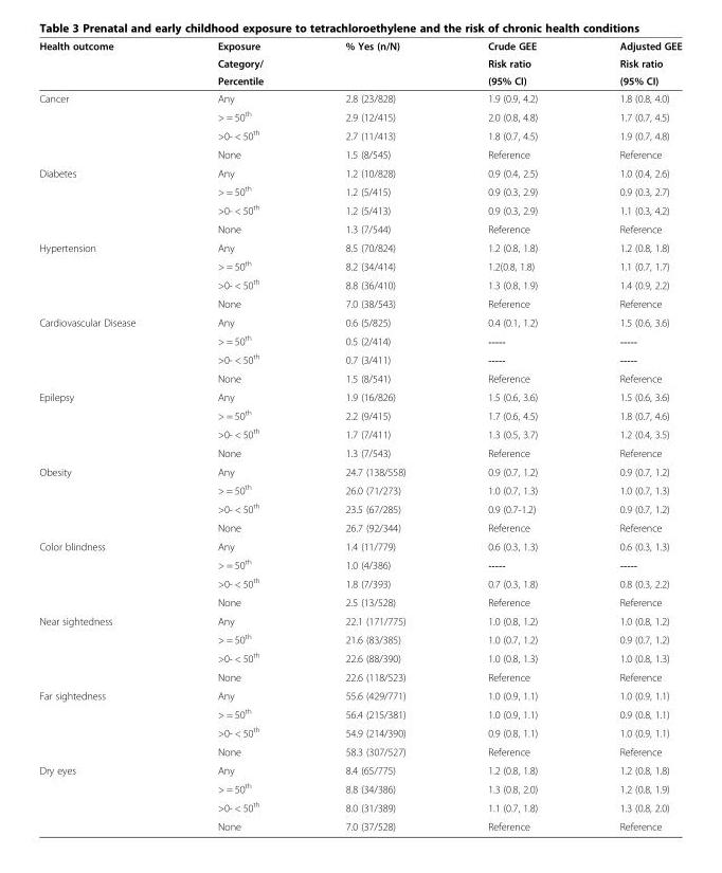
<table><thead><tr><td rowspan="3">Health outcome</td><td rowspan="3">Exposure Category/ Percentile</td><td rowspan="3">% Yes (n/N)</td><td rowspan="3">Crude GEE Risk ratio (95% CI)</td><td rowspan="3">Adjusted GEE Risk ratio (95% CI)</td></tr><tr></tr><tr></tr></thead><tbody><tr><td rowspan="4">Cancer</td><td>Any</td><td>2.8 (23/828)</td><td>1.9 (0.9, 4.2)</td><td>1.8 (0.8, 4.0)</td></tr><tr><td>&gt; = 50<sup>th</sup></td><td>2.9 (12/415)</td><td>2.0 (0.8, 4.8)</td><td>1.7 (0.7, 4.5)</td></tr><tr><td>&gt;0- &lt; 50<sup>th</sup></td><td>2.7 (11/413)</td><td>1.8 (0.7, 4.5)</td><td>1.9 (0.7, 4.8)</td></tr><tr><td>None</td><td>1.5 (8/545)</td><td>Reference</td><td>Reference</td></tr><tr><td rowspan="4">Diabetes</td><td>Any</td><td>1.2 (10/828)</td><td>0.9 (0.4, 2.5)</td><td>1.0 (0.4, 2.6)</td></tr><tr><td>&gt; = 50<sup>th</sup></td><td>1.2 (5/415)</td><td>0.9 (0.3, 2.9)</td><td>0.9 (0.3, 2.7)</td></tr><tr><td>&gt;0- &lt; 50<sup>th</sup></td><td>1.2 (5/413)</td><td>0.9 (0.3, 2.9)</td><td>1.1 (0.3, 4.2)</td></tr><tr><td>None</td><td>1.3 (7/544)</td><td>Reference</td><td>Reference</td></tr><tr><td rowspan="4">Hypertension</td><td>Any</td><td>8.5 (70/824)</td><td>1.2 (0.8, 1.8)</td><td>1.2 (0.8, 1.8)</td></tr><tr><td>&gt; = 50<sup>th</sup></td><td>8.2 (34/414)</td><td>1.2(0.8, 1.8)</td><td>1.1 (0.7, 1.7)</td></tr><tr><td>&gt;0- &lt; 50<sup>th</sup></td><td>8.8 (36/410)</td><td>1.3 (0.8, 1.9)</td><td>1.4 (0.9, 2.2)</td></tr><tr><td>None</td><td>7.0 (38/543)</td><td>Reference</td><td>Reference</td></tr><tr><td rowspan="4">Cardiovascular Disease</td><td>Any</td><td>0.6 (5/825)</td><td>0.4 (0.1, 1.2)</td><td>1.5 (0.6, 3.6)</td></tr><tr><td>&gt; = 50<sup>th</sup></td><td>0.5 (2/414)</td><td>-----</td><td>-----</td></tr><tr><td>&gt;0- &lt; 50<sup>th</sup></td><td>0.7 (3/411)</td><td>-----</td><td>-----</td></tr><tr><td>None</td><td>1.5 (8/541)</td><td>Reference</td><td>Reference</td></tr><tr><td rowspan="4">Epilepsy</td><td>Any</td><td>1.9 (16/826)</td><td>1.5 (0.6, 3.6)</td><td>1.5 (0.6, 3.6)</td></tr><tr><td>&gt; = 50<sup>th</sup></td><td>2.2 (9/415)</td><td>1.7 (0.6, 4.5)</td><td>1.8 (0.7, 4.6)</td></tr><tr><td>&gt;0- &lt; 50<sup>th</sup></td><td>1.7 (7/411)</td><td>1.3 (0.5, 3.7)</td><td>1.2 (0.4, 3.5)</td></tr><tr><td>None</td><td>1.3 (7/543)</td><td>Reference</td><td>Reference</td></tr><tr><td rowspan="4">Obesity</td><td>Any</td><td>24.7 (138/558)</td><td>0.9 (0.7, 1.2)</td><td>0.9 (0.7, 1.2)</td></tr><tr><td>&gt; = 50<sup>th</sup></td><td>26.0 (71/273)</td><td>1.0 (0.7, 1.3)</td><td>1.0 (0.7, 1.3)</td></tr><tr><td>&gt;0- &lt; 50<sup>th</sup></td><td>23.5 (67/285)</td><td>0.9 (0.7-1.2)</td><td>0.9 (0.7, 1.2)</td></tr><tr><td>None</td><td>26.7 (92/344)</td><td>Reference</td><td>Reference</td></tr><tr><td rowspan="4">Color blindness</td><td>Any</td><td>1.4 (11/779)</td><td>0.6 (0.3, 1.3)</td><td>0.6 (0.3, 1.3)</td></tr><tr><td>&gt; = 50<sup>th</sup></td><td>1.0 (4/386)</td><td>-----</td><td>-----</td></tr><tr><td>&gt;0- &lt; 50<sup>th</sup></td><td>1.8 (7/393)</td><td>0.7 (0.3, 1.8)</td><td>0.8 (0.3, 2.2)</td></tr><tr><td>None</td><td>2.5 (13/528)</td><td>Reference</td><td>Reference</td></tr><tr><td rowspan="4">Near sightedness</td><td>Any</td><td>22.1 (171/775)</td><td>1.0 (0.8, 1.2)</td><td>1.0 (0.8, 1.2)</td></tr><tr><td>&gt; = 50<sup>th</sup></td><td>21.6 (83/385)</td><td>1.0 (0.7, 1.2)</td><td>0.9 (0.7, 1.2)</td></tr><tr><td>&gt;0- &lt; 50<sup>th</sup></td><td>22.6 (88/390)</td><td>1.0 (0.8, 1.3)</td><td>1.0 (0.8, 1.3)</td></tr><tr><td>None</td><td>22.6 (118/523)</td><td>Reference</td><td>Reference</td></tr><tr><td rowspan="4">Far sightedness</td><td>Any</td><td>55.6 (429/771)</td><td>1.0 (0.9, 1.1)</td><td>1.0 (0.9, 1.1)</td></tr><tr><td>&gt; = 50<sup>th</sup></td><td>56.4 (215/381)</td><td>1.0 (0.9, 1.1)</td><td>0.9 (0.8, 1.1)</td></tr><tr><td>&gt;0- &lt; 50<sup>th</sup></td><td>54.9 (214/390)</td><td>0.9 (0.8, 1.1)</td><td>1.0 (0.9, 1.1)</td></tr><tr><td>None</td><td>58.3 (307/527)</td><td>Reference</td><td>Reference</td></tr><tr><td rowspan="4">Dry eyes</td><td>Any</td><td>8.4 (65/775)</td><td>1.2 (0.8, 1.8)</td><td>1.2 (0.8, 1.8)</td></tr><tr><td>&gt; = 50<sup>th</sup></td><td>8.8 (34/386)</td><td>1.3 (0.8, 2.0)</td><td>1.2 (0.8, 1.9)</td></tr><tr><td>&gt;0- &lt; 50<sup>th</sup></td><td>8.0 (31/389)</td><td>1.1 (0.7, 1.8)</td><td>1.3 (0.8, 2.0)</td></tr><tr><td>None</td><td>7.0 (37/528)</td><td>Reference</td><td>Reference</td></tr></tbody></table>